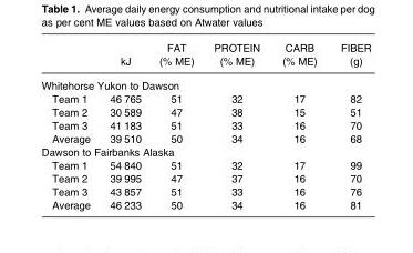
<table><thead><tr><td></td><td>kJ</td><td>FAT (% ME)</td><td>PROTEIN (% ME)</td><td>CARB (% ME)</td><td>FIBER (g)</td></tr></thead><tbody><tr><td colspan="6">Whitehorse Yukon to Dawson</td></tr><tr><td>Team 1</td><td>46 765</td><td>51</td><td>32</td><td>17</td><td>82</td></tr><tr><td>Team 2</td><td>30 589</td><td>47</td><td>38</td><td>15</td><td>51</td></tr><tr><td>Team 3</td><td>41 183</td><td>51</td><td>33</td><td>16</td><td>70</td></tr><tr><td>Average</td><td>39 510</td><td>50</td><td>34</td><td>16</td><td>68</td></tr><tr><td colspan="6">Dawson to Fairbanks Alaska</td></tr><tr><td>Team 1</td><td>54 840</td><td>51</td><td>32</td><td>17</td><td>99</td></tr><tr><td>Team 2</td><td>39 995</td><td>47</td><td>37</td><td>16</td><td>70</td></tr><tr><td>Team 3</td><td>43 857</td><td>51</td><td>33</td><td>16</td><td>76</td></tr><tr><td>Average</td><td>46 233</td><td>50</td><td>34</td><td>16</td><td>81</td></tr></tbody></table>